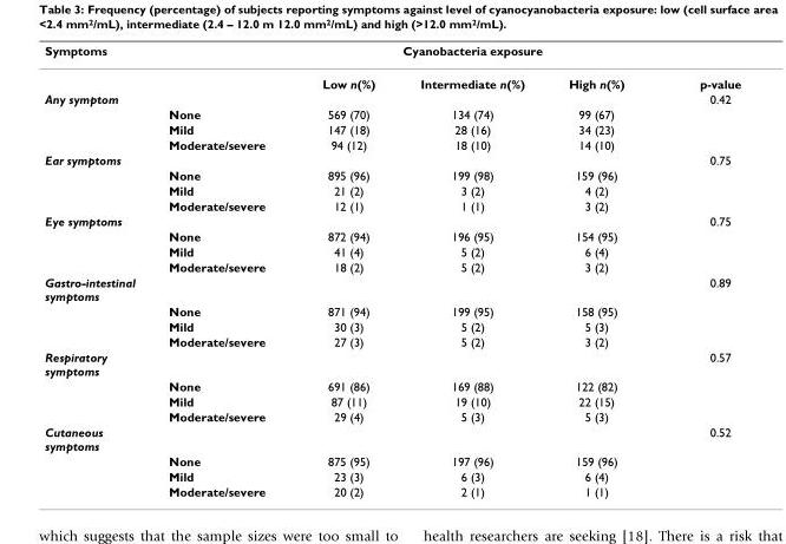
<table><thead><tr><td colspan="2">Symptoms</td><td colspan="3">Cyanobacteria exposure</td><td rowspan="2">p-value</td></tr><tr><td></td><td></td><td>Low n(%)</td><td>Intermediate n(%)</td><td>High n(%)</td></tr></thead><tbody><tr><td rowspan="4">Any symptom</td><td></td><td></td><td></td><td></td><td>0.42</td></tr><tr><td>None</td><td>569 (70)</td><td>134 (74)</td><td>99 (67)</td><td></td></tr><tr><td>Mild</td><td>147 (18)</td><td>28 (16)</td><td>34 (23)</td><td></td></tr><tr><td>Moderate/severe</td><td>94 (12)</td><td>18 (10)</td><td>14 (10)</td><td></td></tr><tr><td rowspan="4">Ear symptoms</td><td></td><td></td><td></td><td></td><td>0.75</td></tr><tr><td>None</td><td>895 (96)</td><td>199 (98)</td><td>159 (96)</td><td></td></tr><tr><td>Mild</td><td>21 (2)</td><td>3 (2)</td><td>4 (2)</td><td></td></tr><tr><td>Moderate/severe</td><td>12 (1)</td><td>1 (1)</td><td>3 (2)</td><td></td></tr><tr><td rowspan="4">Eye symptoms</td><td></td><td></td><td></td><td></td><td>0.75</td></tr><tr><td>None</td><td>872 (94)</td><td>196 (95)</td><td>154 (95)</td><td></td></tr><tr><td>Mild</td><td>41 (4)</td><td>5 (2)</td><td>6 (4)</td><td></td></tr><tr><td>Moderate/severe</td><td>18 (2)</td><td>5 (2)</td><td>3 (2)</td><td></td></tr><tr><td rowspan="4">Gastro-intestinal symptoms</td><td></td><td></td><td></td><td></td><td>0.89</td></tr><tr><td>None</td><td>871 (94)</td><td>199 (95)</td><td>158 (95)</td><td></td></tr><tr><td>Mild</td><td>30 (3)</td><td>5 (2)</td><td>5 (3)</td><td></td></tr><tr><td>Moderate/severe</td><td>27 (3)</td><td>5 (2)</td><td>3 (2)</td><td></td></tr><tr><td rowspan="4">Respiratory symptoms</td><td></td><td></td><td></td><td></td><td>0.57</td></tr><tr><td>None</td><td>691 (86)</td><td>169 (88)</td><td>122 (82)</td><td></td></tr><tr><td>Mild</td><td>87 (11)</td><td>19 (10)</td><td>22 (15)</td><td></td></tr><tr><td>Moderate/severe</td><td>29 (4)</td><td>5 (3)</td><td>5 (3)</td><td></td></tr><tr><td rowspan="4">Cutaneous symptoms</td><td></td><td></td><td></td><td></td><td>0.52</td></tr><tr><td>None</td><td>875 (95)</td><td>197 (96)</td><td>159 (96)</td><td></td></tr><tr><td>Mild</td><td>23 (3)</td><td>6 (3)</td><td>6 (4)</td><td></td></tr><tr><td>Moderate/severe</td><td>20 (2)</td><td>2 (1)</td><td>1 (1)</td><td></td></tr></tbody></table>